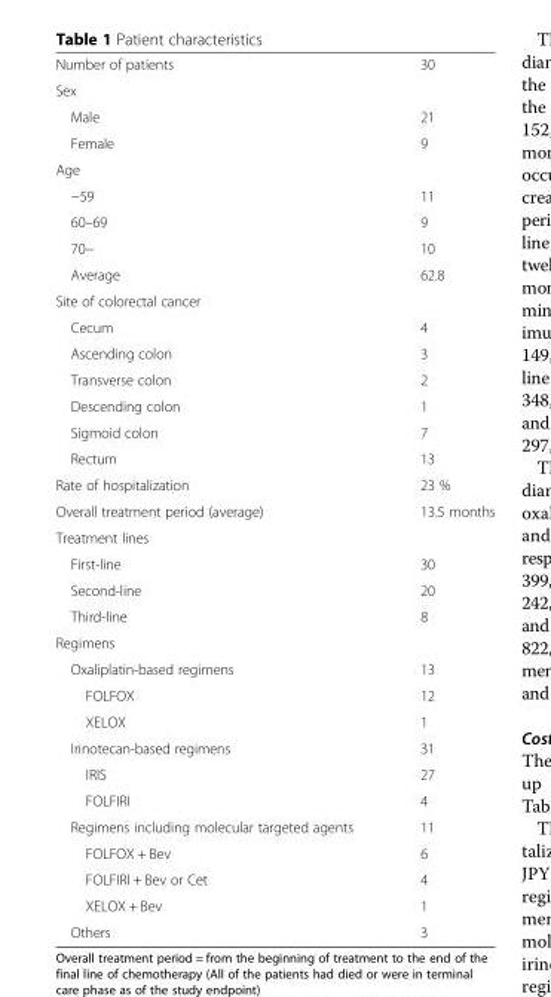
<table><tbody><tr><td>Number of patients</td><td>30</td></tr><tr><td colspan="2">Sex</td></tr><tr><td>Male</td><td>21</td></tr><tr><td>Female</td><td>9</td></tr><tr><td colspan="2">Age</td></tr><tr><td>−59</td><td>11</td></tr><tr><td>60–69</td><td>9</td></tr><tr><td>70−</td><td>10</td></tr><tr><td>Average</td><td>62.8</td></tr><tr><td colspan="2">Site of colorectal cancer</td></tr><tr><td>Cecum</td><td>4</td></tr><tr><td>Ascending colon</td><td>3</td></tr><tr><td>Transverse colon</td><td>2</td></tr><tr><td>Descending colon</td><td>1</td></tr><tr><td>Sigmoid colon</td><td>7</td></tr><tr><td>Rectum</td><td>13</td></tr><tr><td>Rate of hospitalization</td><td>23 %</td></tr><tr><td>Overall treatment period (average)</td><td>13.5 months</td></tr><tr><td colspan="2">Treatment lines</td></tr><tr><td>First-line</td><td>30</td></tr><tr><td>Second-line</td><td>20</td></tr><tr><td>Third-line</td><td>8</td></tr><tr><td colspan="2">Regimens</td></tr><tr><td>Oxaliplatin-based regimens</td><td>13</td></tr><tr><td>FOLFOX</td><td>12</td></tr><tr><td>XELOX</td><td>1</td></tr><tr><td>Irinotecan-based regimens</td><td>31</td></tr><tr><td>IRIS</td><td>27</td></tr><tr><td>FOLFIRI</td><td>4</td></tr><tr><td>Regimens including molecular targeted agents</td><td>11</td></tr><tr><td>FOLFOX + Bev</td><td>6</td></tr><tr><td>FOLFIRI + Bev or Cet</td><td>4</td></tr><tr><td>XELOX + Bev</td><td>1</td></tr><tr><td>Others</td><td>3</td></tr></tbody></table>